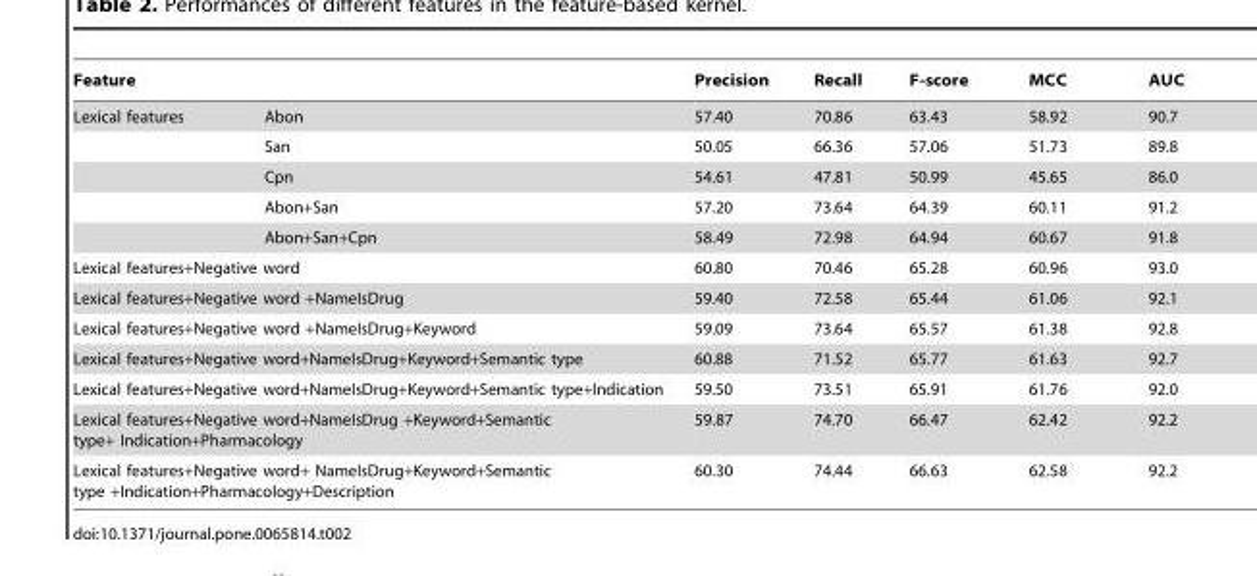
<table><thead><tr><td colspan="2">Feature</td><td rowspan="2">Precision 57.40</td><td rowspan="2">Recall 70.86</td><td rowspan="2">F-score 63.43</td><td rowspan="2">MCC 58.92</td><td rowspan="2">AUC 90.7</td></tr><tr><td>Lexical features</td><td>Abon</td></tr></thead><tbody><tr><td></td><td>San</td><td>50.05</td><td>66.36</td><td>57.06</td><td>51.73</td><td>89.8</td></tr><tr><td></td><td>Cpn</td><td>54.61</td><td>47.81</td><td>50.99</td><td>45.65</td><td>86.0</td></tr><tr><td></td><td>Abon+San</td><td>57.20</td><td>73.64</td><td>64.39</td><td>60.11</td><td>91.2</td></tr><tr><td></td><td>Abon+San+Cpn</td><td>58.49</td><td>72.98</td><td>64.94</td><td>60.67</td><td>91.8</td></tr><tr><td colspan="2">Lexical features+Negative word</td><td>60.80</td><td>70.46</td><td>65.28</td><td>60.96</td><td>93.0</td></tr><tr><td colspan="2">Lexical features+Negative word +NameIsDrug</td><td>59.40</td><td>72.58</td><td>65.44</td><td>61.06</td><td>92.1</td></tr><tr><td colspan="2">Lexical features+Negative word +NameIsDrug+Keyword</td><td>59.09</td><td>73.64</td><td>65.57</td><td>61.38</td><td>92.8</td></tr><tr><td colspan="2">Lexical features+Negative word+NameIsDrug+Keyword+Semantic type</td><td>60.88</td><td>71.52</td><td>65.77</td><td>61.63</td><td>92.7</td></tr><tr><td colspan="2">Lexical features+Negative word+NameIsDrug+Keyword+Semantic type+Indication</td><td>59.50</td><td>73.51</td><td>65.91</td><td>61.76</td><td>92.0</td></tr><tr><td colspan="2">Lexical features+Negative word+NameIsDrug +Keyword+Semantic type+ Indication+Pharmacology</td><td>59.87</td><td>74.70</td><td>66.47</td><td>62.42</td><td>92.2</td></tr><tr><td colspan="2">Lexical features+Negative word+ NameIsDrug+Keyword+Semantic type +Indication+Pharmacology+Description</td><td>60.30</td><td>74.44</td><td>66.63</td><td>62.58</td><td>92.2</td></tr></tbody></table>